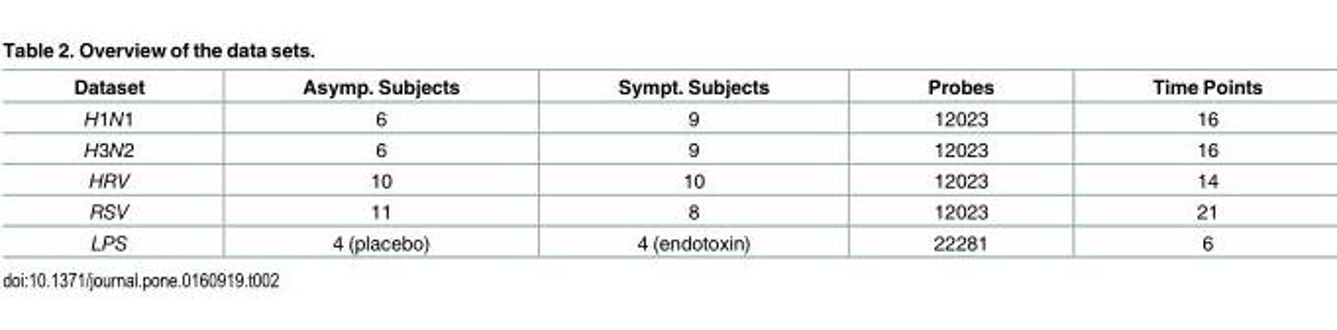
<table><thead><tr><td>Dataset</td><td>Asymp. Subjects</td><td>Sympt. Subjects</td><td>Probes</td><td>Time Points</td></tr></thead><tbody><tr><td>H1N1</td><td>6</td><td>9</td><td>12023</td><td>16</td></tr><tr><td>H3N2</td><td>6</td><td>9</td><td>12023</td><td>16</td></tr><tr><td>HRV</td><td>10</td><td>10</td><td>12023</td><td>14</td></tr><tr><td>RSV</td><td>11</td><td>8</td><td>12023</td><td>21</td></tr><tr><td>LPS</td><td>4 (placebo)</td><td>4 (endotoxin)</td><td>22281</td><td>6</td></tr></tbody></table>